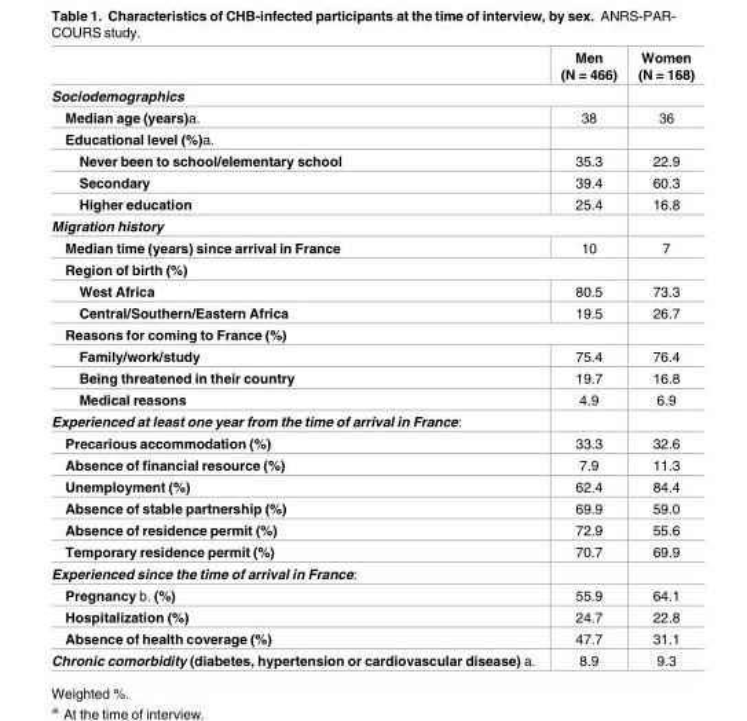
<table><thead><tr><td></td><td>Men (N = 466)</td><td>Women (N = 168)</td></tr></thead><tbody><tr><td colspan="3">Sociodemographics</td></tr><tr><td>Median age (years)a.</td><td>38</td><td>36</td></tr><tr><td colspan="3">Educational level (%)a.</td></tr><tr><td>Never been to school/elementary school</td><td>35.3</td><td>22.9</td></tr><tr><td>Secondary</td><td>39.4</td><td>60.3</td></tr><tr><td>Higher education</td><td>25.4</td><td>16.8</td></tr><tr><td colspan="3">Migration history</td></tr><tr><td>Median time (years) since arrival in France</td><td>10</td><td>7</td></tr><tr><td colspan="3">Region of birth (%)</td></tr><tr><td>West Africa</td><td>80.5</td><td>73.3</td></tr><tr><td>Central/Southern/Eastern Africa</td><td>19.5</td><td>26.7</td></tr><tr><td colspan="3">Reasons for coming to France (%)</td></tr><tr><td>Family/work/study</td><td>75.4</td><td>76.4</td></tr><tr><td>Being threatened in their country</td><td>19.7</td><td>16.8</td></tr><tr><td>Medical reasons</td><td>4.9</td><td>6.9</td></tr><tr><td colspan="3">Experienced at least one year from the time of arrival in France:</td></tr><tr><td>Precarious accommodation (%)</td><td>33.3</td><td>32.6</td></tr><tr><td>Absence of financial resource (%)</td><td>7.9</td><td>11.3</td></tr><tr><td>Unemployment (%)</td><td>62.4</td><td>84.4</td></tr><tr><td>Absence of stable partnership (%)</td><td>69.9</td><td>59.0</td></tr><tr><td>Absence of residence permit (%)</td><td>72.9</td><td>55.6</td></tr><tr><td>Temporary residence permit (%)</td><td>70.7</td><td>69.9</td></tr><tr><td colspan="3">Experienced since the time of arrival in France:</td></tr><tr><td>Pregnancy b. (%)</td><td>55.9</td><td>64.1</td></tr><tr><td>Hospitalization (%)</td><td>24.7</td><td>22.8</td></tr><tr><td>Absence of health coverage (%)</td><td>47.7</td><td>31.1</td></tr><tr><td>Chronic comorbidity (diabetes, hypertension or cardiovascular disease) a.</td><td>8.9</td><td>9.3</td></tr></tbody></table>